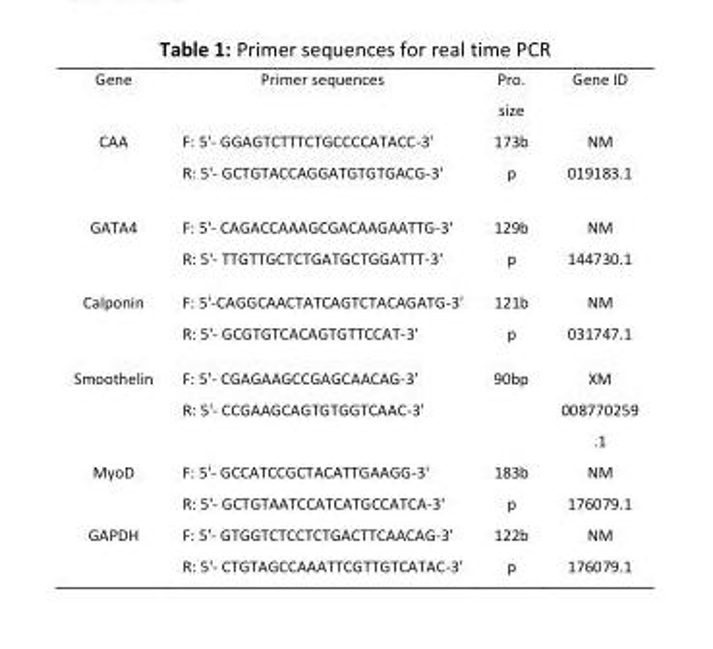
<table><tbody><tr><td>Gene</td><td>Primer sequences</td><td>Pro. size</td><td>Gene ID</td></tr><tr><td>CAA</td><td>F: 5&#x27;- GGAGTCTTTCTGCCCCATACC-3&#x27; R: 5&#x27;- GCTGTACCAGGATGTGTGACG-3&#x27;</td><td>173b p</td><td>NM 019183.1</td></tr><tr><td>GATA4</td><td>F: 5&#x27;- CAGACCAAAGCGACAAGAATTG-3&#x27; R: 5&#x27;- TTGTTGCTCTGATGCTGGATTT-3&#x27;</td><td>129b p</td><td>NM 144730.1</td></tr><tr><td>Calponin</td><td>F: 5&#x27;-CAGGCAACTATCAGTCTACAGATG-3&#x27; R: 5&#x27;- GCGTGTCACAGTGTTCCAT-3&#x27;</td><td>121b p</td><td>NM 031747.1</td></tr><tr><td>Smoothelin</td><td>F: 5’- CGAGAAGCCGAGCAACAG-3’ R: 5&#x27;- CCGAAGCAGTGTGGTCAAC-3&#x27;</td><td>90bp</td><td>XM 008770259 .1</td></tr><tr><td>MyoD</td><td>F: 5&#x27;- GCCATCCGCTACATTGAAGG-3&#x27; R: 5&#x27;- GCTGTAATCCATCATGCCATCA-3&#x27;</td><td>183b p</td><td>NM 176079.1</td></tr><tr><td>GAPDH</td><td>F: 5&#x27;- GTGGTCTCCTCTGACTTCAACAG-3&#x27; R: 5&#x27;- CTGTAGCCAAATTCGTTGTCATAC-3&#x27;</td><td>122b p</td><td>NM 176079.1</td></tr></tbody></table>